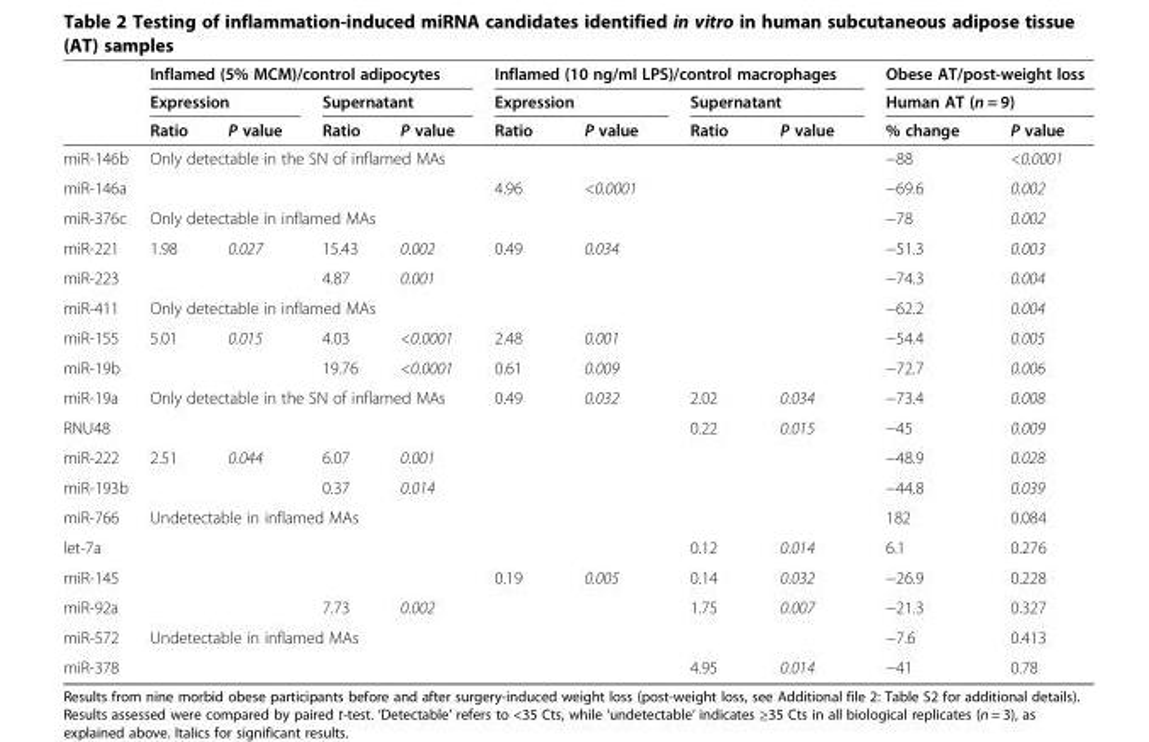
<table><thead><tr><td rowspan="3"></td><td colspan="4">Inflamed (5% MCM)/control adipocytes</td><td colspan="4">Inflamed (10 ng/ml LPS)/control macrophages</td><td rowspan="2" colspan="2">Obese AT/post-weight loss Human AT (n = 9)</td></tr><tr><td colspan="2">Expression</td><td colspan="2">Supernatant</td><td colspan="2">Expression</td><td colspan="2">Supernatant</td></tr><tr><td>Ratio</td><td>P value</td><td>Ratio</td><td>P value</td><td>Ratio</td><td>P value</td><td>Ratio</td><td>P value</td><td>% change</td><td>P value</td></tr></thead><tbody><tr><td>miR-146b</td><td colspan="4">Only detectable in the SN of inflamed MAs</td><td></td><td></td><td></td><td></td><td>−88</td><td>&lt;0.0001</td></tr><tr><td>miR-146a</td><td></td><td></td><td></td><td></td><td>4.96</td><td>&lt;0.0001</td><td></td><td></td><td>−69.6</td><td>0.002</td></tr><tr><td>miR-376c</td><td colspan="4">Only detectable in inflamed MAs</td><td></td><td></td><td></td><td></td><td>−78</td><td>0.002</td></tr><tr><td>miR-221</td><td>1.98</td><td>0.027</td><td>15.43</td><td>0.002</td><td>0.49</td><td>0.034</td><td></td><td></td><td>−51.3</td><td>0.003</td></tr><tr><td>miR-223</td><td></td><td></td><td>4.87</td><td>0.001</td><td></td><td></td><td></td><td></td><td>−74.3</td><td>0.004</td></tr><tr><td>miR-411</td><td colspan="4">Only detectable in inflamed MAs</td><td></td><td></td><td></td><td></td><td>−62.2</td><td>0.004</td></tr><tr><td>miR-155</td><td>5.01</td><td>0.015</td><td>4.03</td><td>&lt;0.0001</td><td>2.48</td><td>0.001</td><td></td><td></td><td>−54.4</td><td>0.005</td></tr><tr><td>miR-19b</td><td></td><td></td><td>19.76</td><td>&lt;0.0001</td><td>0.61</td><td>0.009</td><td></td><td></td><td>−72.7</td><td>0.006</td></tr><tr><td>miR-19a</td><td colspan="4">Only detectable in the SN of inflamed MAs</td><td>0.49</td><td>0.032</td><td>2.02</td><td>0.034</td><td>−73.4</td><td>0.008</td></tr><tr><td>RNU48</td><td></td><td></td><td></td><td></td><td></td><td></td><td>0.22</td><td>0.015</td><td>−45</td><td>0.009</td></tr><tr><td>miR-222</td><td>2.51</td><td>0.044</td><td>6.07</td><td>0.001</td><td></td><td></td><td></td><td></td><td>−48.9</td><td>0.028</td></tr><tr><td>miR-193b</td><td></td><td></td><td>0.37</td><td>0.014</td><td></td><td></td><td></td><td></td><td>−44.8</td><td>0.039</td></tr><tr><td>miR-766</td><td colspan="4">Undetectable in inflamed MAs</td><td></td><td></td><td></td><td></td><td>182</td><td>0.084</td></tr><tr><td>let-7a</td><td></td><td></td><td></td><td></td><td></td><td></td><td>0.12</td><td>0.014</td><td>6.1</td><td>0.276</td></tr><tr><td>miR-145</td><td></td><td></td><td></td><td></td><td>0.19</td><td>0.005</td><td>0.14</td><td>0.032</td><td>−26.9</td><td>0.228</td></tr><tr><td>miR-92a</td><td></td><td></td><td>7.73</td><td>0.002</td><td></td><td></td><td>1.75</td><td>0.007</td><td>−21.3</td><td>0.327</td></tr><tr><td>miR-572</td><td colspan="4">Undetectable in inflamed MAs</td><td></td><td></td><td></td><td></td><td>−7.6</td><td>0.413</td></tr><tr><td>miR-378</td><td></td><td></td><td></td><td></td><td></td><td></td><td>4.95</td><td>0.014</td><td>−41</td><td>0.78</td></tr></tbody></table>